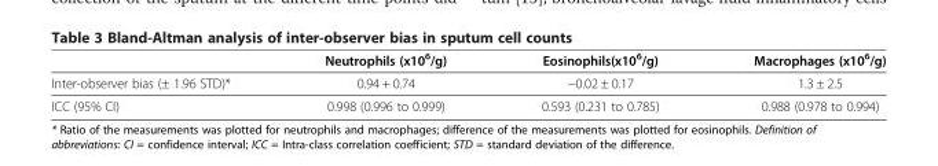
<table><thead><tr><td></td><td>Neutrophils (x10<sup>6</sup>/g)</td><td>Eosinophils(x10<sup>6</sup>/g)</td><td>Macrophages (x10<sup>6</sup>/g)</td></tr></thead><tbody><tr><td>Inter-observer bias (± 1.96 STD)*</td><td>0.94 + 0.74</td><td>−0.02 ± 0.17</td><td>1.3 ± 2.5</td></tr><tr><td>ICC (95% CI)</td><td>0.998 (0.996 to 0.999)</td><td>0.593 (0.231 to 0.785)</td><td>0.988 (0.978 to 0.994)</td></tr></tbody></table>